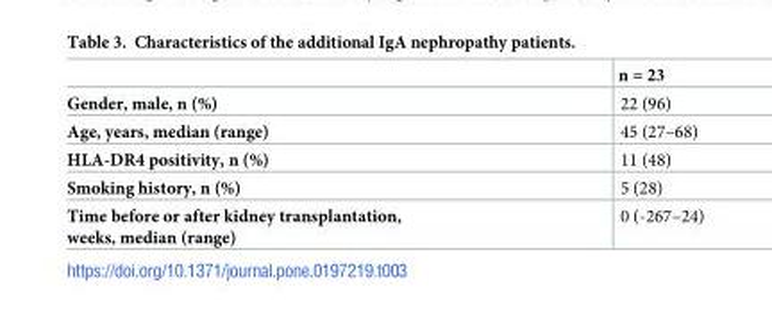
<table><thead><tr><td></td><td>n = 23</td></tr></thead><tbody><tr><td>Gender, male, n (%)</td><td>22 (96)</td></tr><tr><td>Age, years, median (range)</td><td>45 (27–68)</td></tr><tr><td>HLA-DR4 positivity, n (%)</td><td>11 (48)</td></tr><tr><td>Smoking history, n (%)</td><td>5 (28)</td></tr><tr><td>Time before or after kidney transplantation, weeks, median (range)</td><td>0 (-267–24)</td></tr></tbody></table>